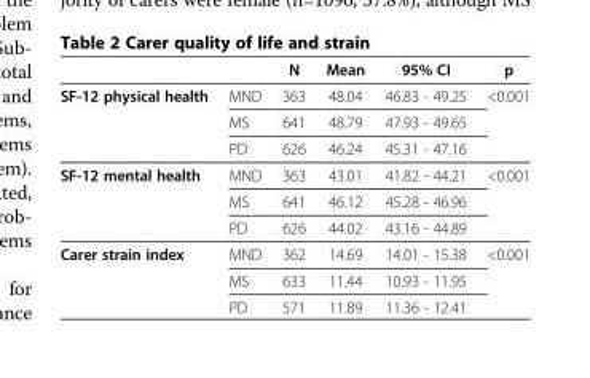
<table><thead><tr><td></td><td></td><td>N</td><td>Mean</td><td>95% CI</td><td>p</td></tr></thead><tbody><tr><td rowspan="3">SF-12 physical health</td><td>MND</td><td>363</td><td>48.04</td><td>46.83 - 49.25</td><td rowspan="3">&lt;0.001</td></tr><tr><td>MS</td><td>641</td><td>48.79</td><td>47.93 - 49.65</td></tr><tr><td>PD</td><td>626</td><td>46.24</td><td>45.31 - 47.16</td></tr><tr><td rowspan="3">SF-12 mental health</td><td>MND</td><td>363</td><td>43.01</td><td>41.82 - 44.21</td><td rowspan="3">&lt;0.001</td></tr><tr><td>MS</td><td>641</td><td>46.12</td><td>45.28 - 46.96</td></tr><tr><td>PD</td><td>626</td><td>44.02</td><td>43.16 - 44.89</td></tr><tr><td rowspan="3">Carer strain index</td><td>MND</td><td>362</td><td>14.69</td><td>14.01 - 15.38</td><td rowspan="3">&lt;0.001</td></tr><tr><td>MS</td><td>633</td><td>11.44</td><td>10.93 - 11.95</td></tr><tr><td>PD</td><td>571</td><td>11.89</td><td>11.36 - 12.41</td></tr></tbody></table>